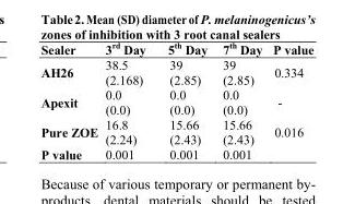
<table><thead><tr><td>Sealer</td><td>3<sup>rd</sup> Day</td><td>5<sup>th</sup> Day</td><td>7<sup>th</sup> Day</td><td>P value</td></tr></thead><tbody><tr><td>AH26</td><td>38.5 (2.168)</td><td>39 (2.85)</td><td>39 (2.85)</td><td>0.334</td></tr><tr><td>Apexit</td><td>0.0 (0.0)</td><td>0.0 (0.0)</td><td>0.0 (0.0)</td><td>-</td></tr><tr><td>Pure ZOE</td><td>16.8 (2.24)</td><td>15.66 (2.43)</td><td>15.66 (2.43)</td><td>0.016</td></tr><tr><td>P value</td><td>0.001</td><td>0.001</td><td>0.001</td><td></td></tr></tbody></table>